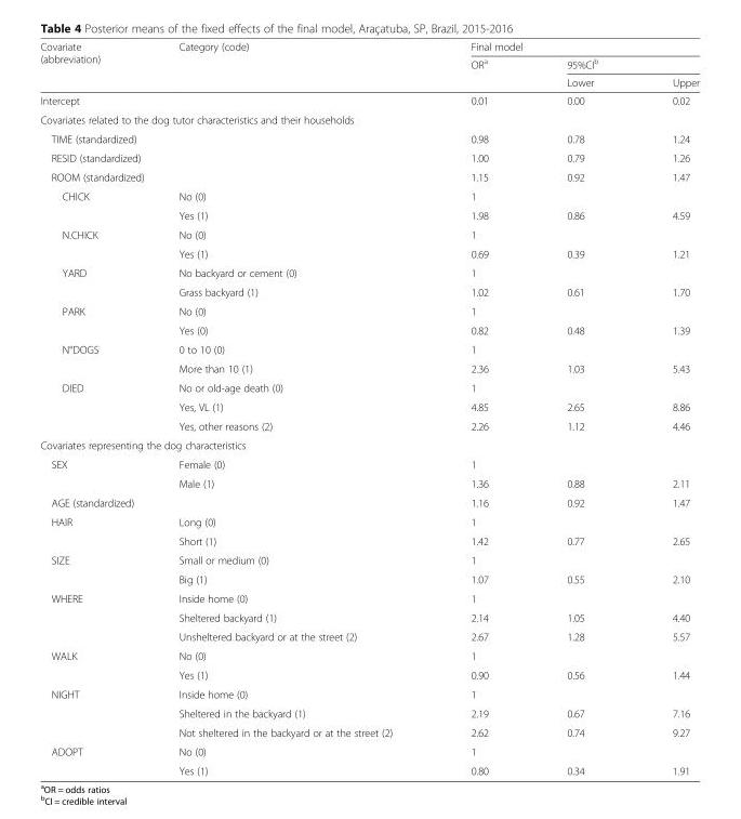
<table><thead><tr><td rowspan="3">Covariate (abbreviation)</td><td rowspan="3">Category (code)</td><td colspan="3">Final model</td></tr><tr><td rowspan="2">OR<sup>a</sup></td><td colspan="2">95%CI<sup>b</sup></td></tr><tr><td>Lower</td><td>Upper</td></tr></thead><tbody><tr><td colspan="2">Intercept</td><td>0.01</td><td>0.00</td><td>0.02</td></tr><tr><td colspan="5">Covariates related to the dog tutor characteristics and their households</td></tr><tr><td colspan="2">TIME (standardized)</td><td>0.98</td><td>0.78</td><td>1.24</td></tr><tr><td colspan="2">RESID (standardized)</td><td>1.00</td><td>0.79</td><td>1.26</td></tr><tr><td colspan="2">ROOM (standardized)</td><td>1.15</td><td>0.92</td><td>1.47</td></tr><tr><td rowspan="2">CHICK</td><td>No (0)</td><td>1</td><td></td><td></td></tr><tr><td>Yes (1)</td><td>1.98</td><td>0.86</td><td>4.59</td></tr><tr><td rowspan="2">N.CHICK</td><td>No (0)</td><td>1</td><td></td><td></td></tr><tr><td>Yes (1)</td><td>0.69</td><td>0.39</td><td>1.21</td></tr><tr><td rowspan="2">YARD</td><td>No backyard or cement (0)</td><td>1</td><td></td><td></td></tr><tr><td>Grass backyard (1)</td><td>1.02</td><td>0.61</td><td>1.70</td></tr><tr><td rowspan="2">PARK</td><td>No (0)</td><td>1</td><td></td><td></td></tr><tr><td>Yes (0)</td><td>0.82</td><td>0.48</td><td>1.39</td></tr><tr><td rowspan="2">N°DOGS</td><td>0 to 10 (0)</td><td>1</td><td></td><td></td></tr><tr><td>More than 10 (1)</td><td>2.36</td><td>1.03</td><td>5.43</td></tr><tr><td rowspan="3">DIED</td><td>No or old-age death (0)</td><td>1</td><td></td><td></td></tr><tr><td>Yes, VL (1)</td><td>4.85</td><td>2.65</td><td>8.86</td></tr><tr><td>Yes, other reasons (2)</td><td>2.26</td><td>1.12</td><td>4.46</td></tr><tr><td colspan="5">Covariates representing the dog characteristics</td></tr><tr><td rowspan="2">SEX</td><td>Female (0)</td><td>1</td><td></td><td></td></tr><tr><td>Male (1)</td><td>1.36</td><td>0.88</td><td>2.11</td></tr><tr><td colspan="2">AGE (standardized)</td><td>1.16</td><td>0.92</td><td>1.47</td></tr><tr><td rowspan="2">HAIR</td><td>Long (0)</td><td>1</td><td></td><td></td></tr><tr><td>Short (1)</td><td>1.42</td><td>0.77</td><td>2.65</td></tr><tr><td rowspan="2">SIZE</td><td>Small or medium (0)</td><td>1</td><td></td><td></td></tr><tr><td>Big (1)</td><td>1.07</td><td>0.55</td><td>2.10</td></tr><tr><td rowspan="3">WHERE</td><td>Inside home (0)</td><td>1</td><td></td><td></td></tr><tr><td>Sheltered backyard (1)</td><td>2.14</td><td>1.05</td><td>4.40</td></tr><tr><td>Unsheltered backyard or at the street (2)</td><td>2.67</td><td>1.28</td><td>5.57</td></tr><tr><td rowspan="2">WALK</td><td>No (0)</td><td>1</td><td></td><td></td></tr><tr><td>Yes (1)</td><td>0.90</td><td>0.56</td><td>1.44</td></tr><tr><td rowspan="3">NIGHT</td><td>Inside home (0)</td><td>1</td><td></td><td></td></tr><tr><td>Sheltered in the backyard (1)</td><td>2.19</td><td>0.67</td><td>7.16</td></tr><tr><td>Not sheltered in the backyard or at the street (2)</td><td>2.62</td><td>0.74</td><td>9.27</td></tr><tr><td rowspan="2">ADOPT</td><td>No (0)</td><td>1</td><td></td><td></td></tr><tr><td>Yes (1)</td><td>0.80</td><td>0.34</td><td>1.91</td></tr></tbody></table>